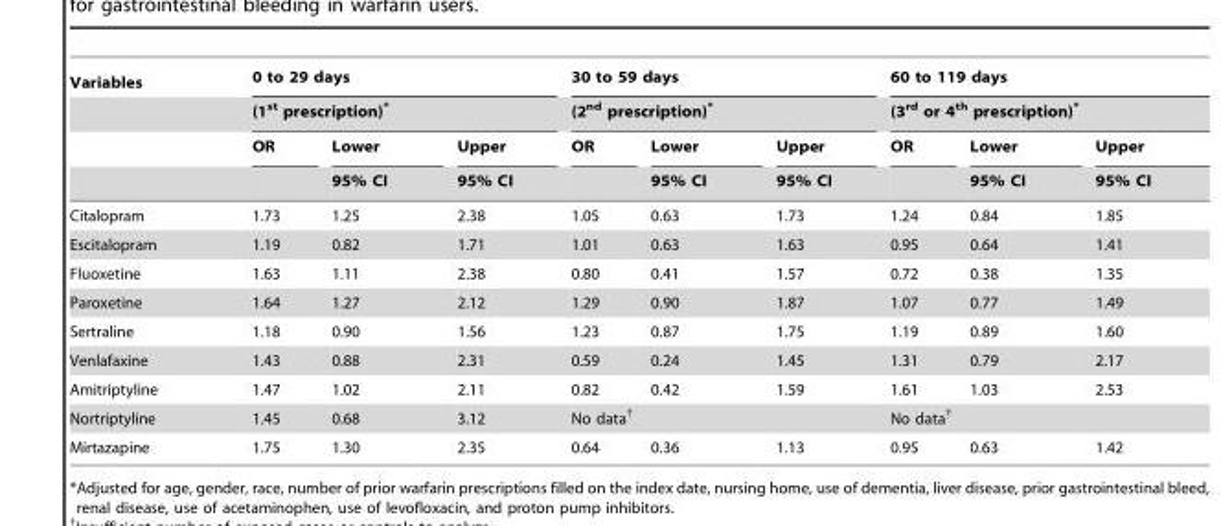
<table><thead><tr><td rowspan="4">Variables</td><td rowspan="2" colspan="3">0 to 29 days (1<sup>st</sup> prescription)*</td><td rowspan="2" colspan="3">30 to 59 days (2<sup>nd</sup> prescription)*</td><td rowspan="2" colspan="3">60 to 119 days (3<sup>rd</sup> or 4<sup>th</sup> prescription)*</td></tr><tr></tr><tr><td rowspan="2">OR</td><td rowspan="2">Lower 95% CI</td><td rowspan="2">Upper 95% CI</td><td rowspan="2">OR</td><td rowspan="2">Lower 95% CI</td><td rowspan="2">Upper 95% CI</td><td rowspan="2">OR</td><td rowspan="2">Lower 95% CI</td><td rowspan="2">Upper 95% CI</td></tr><tr></tr></thead><tbody><tr><td>Citalopram</td><td>1.73</td><td>1.25</td><td>2.38</td><td>1.05</td><td>0.63</td><td>1.73</td><td>1.24</td><td>0.84</td><td>1.85</td></tr><tr><td>Escitalopram</td><td>1.19</td><td>0.82</td><td>1.71</td><td>1.01</td><td>0.63</td><td>1.63</td><td>0.95</td><td>0.64</td><td>1.41</td></tr><tr><td>Fluoxetine</td><td>1.63</td><td>1.11</td><td>2.38</td><td>0.80</td><td>0.41</td><td>1.57</td><td>0.72</td><td>0.38</td><td>1.35</td></tr><tr><td>Paroxetine</td><td>1.64</td><td>1.27</td><td>2.12</td><td>1.29</td><td>0.90</td><td>1.87</td><td>1.07</td><td>0.77</td><td>1.49</td></tr><tr><td>Sertraline</td><td>1.18</td><td>0.90</td><td>1.56</td><td>1.23</td><td>0.87</td><td>1.75</td><td>1.19</td><td>0.89</td><td>1.60</td></tr><tr><td>Venlafaxine</td><td>1.43</td><td>0.88</td><td>2.31</td><td>0.59</td><td>0.24</td><td>1.45</td><td>1.31</td><td>0.79</td><td>2.17</td></tr><tr><td>Amitriptyline</td><td>1.47</td><td>1.02</td><td>2.11</td><td>0.82</td><td>0.42</td><td>1.59</td><td>1.61</td><td>1.03</td><td>2.53</td></tr><tr><td>Nortriptyline</td><td>1.45</td><td>0.68</td><td>3.12</td><td colspan="3">No data†</td><td colspan="3">No data†</td></tr><tr><td>Mirtazapine</td><td>1.75</td><td>1.30</td><td>2.35</td><td>0.64</td><td>0.36</td><td>1.13</td><td>0.95</td><td>0.63</td><td>1.42</td></tr></tbody></table>